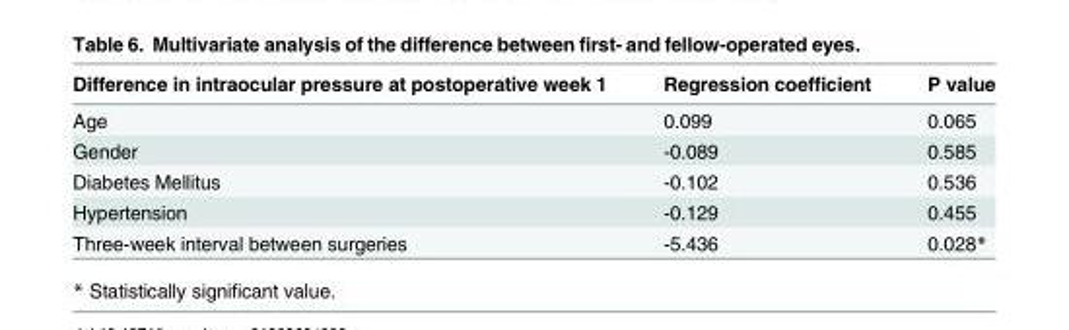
<table><thead><tr><td>Difference in intraocular pressure at postoperative week 1</td><td>Regression coefficient</td><td>P value</td></tr></thead><tbody><tr><td>Age</td><td>0.099</td><td>0.065</td></tr><tr><td>Gender</td><td>-0.089</td><td>0.585</td></tr><tr><td>Diabetes Mellitus</td><td>-0.102</td><td>0.536</td></tr><tr><td>Hypertension</td><td>-0.129</td><td>0.455</td></tr><tr><td>Three-week interval between surgeries</td><td>-5.436</td><td>0.028*</td></tr></tbody></table>